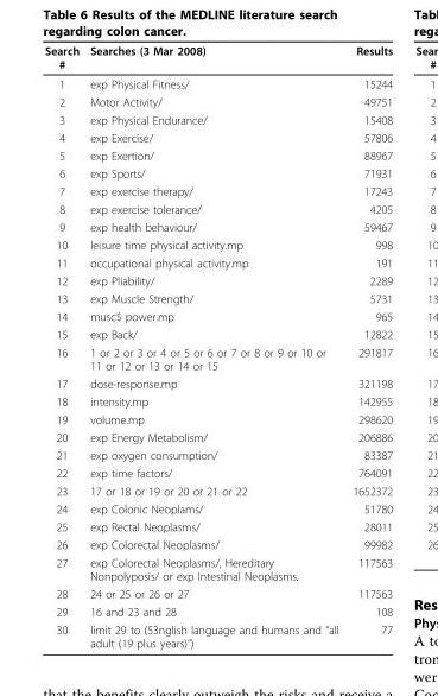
<table><thead><tr><td>Search #</td><td>Searches (3 Mar 2008)</td><td>Results</td></tr></thead><tbody><tr><td>1</td><td>exp Physical Fitness/</td><td>15244</td></tr><tr><td>2</td><td>Motor Activity/</td><td>49751</td></tr><tr><td>3</td><td>exp Physical Endurance/</td><td>15408</td></tr><tr><td>4</td><td>exp Exercise/</td><td>57806</td></tr><tr><td>5</td><td>exp Exertion/</td><td>88967</td></tr><tr><td>6</td><td>exp Sports/</td><td>71931</td></tr><tr><td>7</td><td>exp exercise therapy/</td><td>17243</td></tr><tr><td>8</td><td>exp exercise tolerance/</td><td>4205</td></tr><tr><td>9</td><td>exp health behaviour/</td><td>59467</td></tr><tr><td>10</td><td>leisure time physical activity.mp</td><td>998</td></tr><tr><td>11</td><td>occupational physical activity.mp</td><td>191</td></tr><tr><td>12</td><td>exp Pliability/</td><td>2289</td></tr><tr><td>13</td><td>exp Muscle Strength/</td><td>5731</td></tr><tr><td>14</td><td>musc$ power.mp</td><td>965</td></tr><tr><td>15</td><td>exp Back/</td><td>12822</td></tr><tr><td>16</td><td>1 or 2 or 3 or 4 or 5 or 6 or 7 or 8 or 9 or 10 or 11 or 12 or 13 or 14 or 15</td><td>291817</td></tr><tr><td>17</td><td>dose-response.mp</td><td>321198</td></tr><tr><td>18</td><td>intensity.mp</td><td>142955</td></tr><tr><td>19</td><td>volume.mp</td><td>298620</td></tr><tr><td>20</td><td>exp Energy Metabolism/</td><td>206886</td></tr><tr><td>21</td><td>exp oxygen consumption/</td><td>83387</td></tr><tr><td>22</td><td>exp time factors/</td><td>764091</td></tr><tr><td>23</td><td>17 or 18 or 19 or 20 or 21 or 22</td><td>1652372</td></tr><tr><td>24</td><td>exp Colonic Neoplams/</td><td>51780</td></tr><tr><td>25</td><td>exp Rectal Neoplasms/</td><td>28011</td></tr><tr><td>26</td><td>exp Colorectal Neoplasms/</td><td>99982</td></tr><tr><td>27</td><td>exp Colorectal Neoplasms/, Hereditary Nonpolyposis/ or exp Intestinal Neoplasms.</td><td>117563</td></tr><tr><td>28</td><td>24 or 25 or 26 or 27</td><td>117563</td></tr><tr><td>29</td><td>16 and 23 and 28</td><td>108</td></tr><tr><td>30</td><td>limit 29 to (53nglish language and humans and “all adult (19 plus years)”)</td><td>77</td></tr></tbody></table>